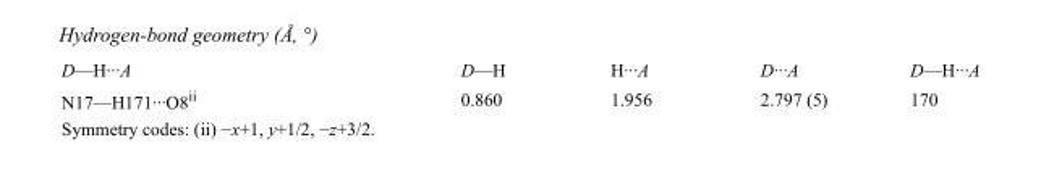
<table><tbody><tr><td>D—H···A</td><td>D—H</td><td>H···A</td><td>D···A</td><td>D—H···A</td></tr><tr><td>N17—H171···O8<sup>ii</sup></td><td>0.860</td><td>1.956</td><td>2.797 (5)</td><td>170</td></tr></tbody></table>